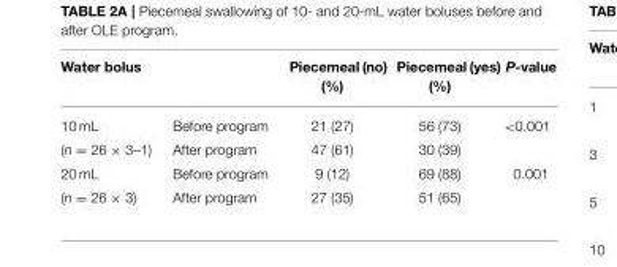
<table><thead><tr><td>Water bolus</td><td></td><td>Piecemeal (no) (%)</td><td>Piecemeal (yes) (%)</td><td>P-value</td></tr></thead><tbody><tr><td>10 mL</td><td>Before program</td><td>21 (27)</td><td>56 (73)</td><td>&lt;0.001</td></tr><tr><td>(n = 26 × 3–1)</td><td>After program</td><td>47 (61)</td><td>30 (39)</td><td></td></tr><tr><td>20 mL</td><td>Before program</td><td>9 (12)</td><td>69 (88)</td><td>0.001</td></tr><tr><td>(n = 26 × 3)</td><td>After program</td><td>27 (35)</td><td>51 (65)</td><td></td></tr></tbody></table>